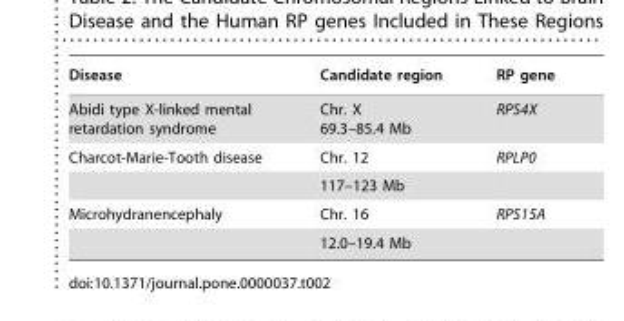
<table><thead><tr><td>Disease</td><td>Candidate region</td><td>RP gene</td></tr></thead><tbody><tr><td>Abidi type X-linked mental retardation syndrome</td><td>Chr. X 69.3–85.4 Mb</td><td>RPS4X</td></tr><tr><td rowspan="2">Charcot-Marie-Tooth disease</td><td>Chr. 12</td><td>RPLP0</td></tr><tr><td>117–123 Mb</td><td></td></tr><tr><td rowspan="2">Microhydranencephaly</td><td>Chr. 16</td><td>RPS15A</td></tr><tr><td>12.0–19.4 Mb</td><td></td></tr></tbody></table>